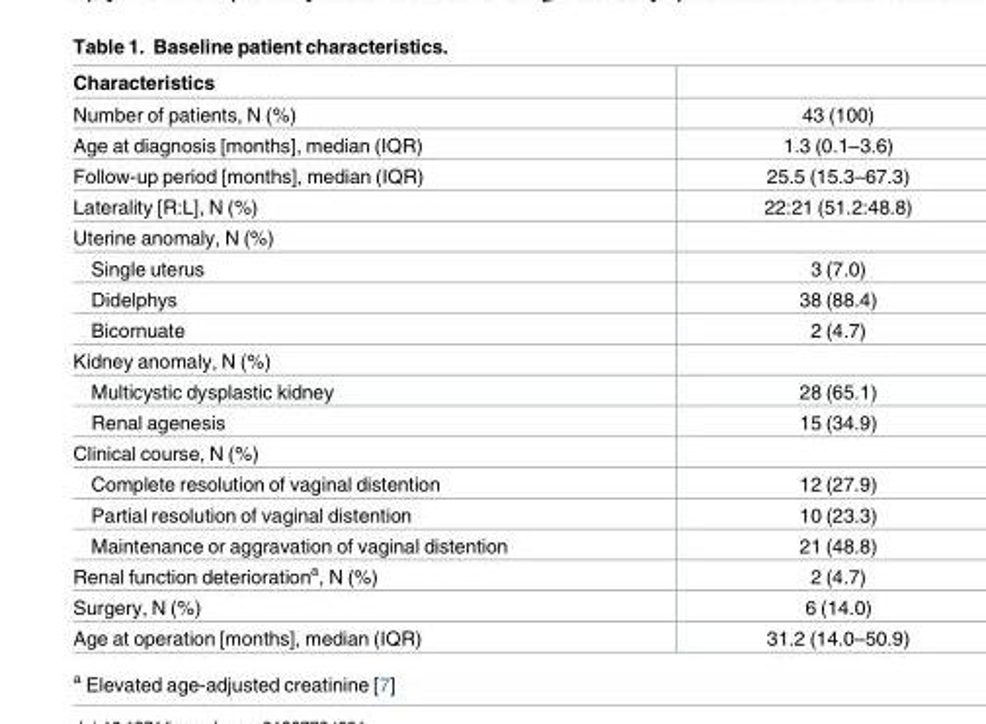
<table><thead><tr><td>Characteristics</td><td></td></tr></thead><tbody><tr><td>Number of patients, N (%)</td><td>43 (100)</td></tr><tr><td>Age at diagnosis [months], median (IQR)</td><td>1.3 (0.1–3.6)</td></tr><tr><td>Follow-up period [months], median (IQR)</td><td>25.5 (15.3–67.3)</td></tr><tr><td>Laterality [R:L], N (%)</td><td>22:21 (51.2:48.8)</td></tr><tr><td colspan="2">Uterine anomaly, N (%)</td></tr><tr><td>Single uterus</td><td>3 (7.0)</td></tr><tr><td>Didelphys</td><td>38 (88.4)</td></tr><tr><td>Bicornuate</td><td>2 (4.7)</td></tr><tr><td colspan="2">Kidney anomaly, N (%)</td></tr><tr><td>Multicystic dysplastic kidney</td><td>28 (65.1)</td></tr><tr><td>Renal agenesis</td><td>15 (34.9)</td></tr><tr><td colspan="2">Clinical course, N (%)</td></tr><tr><td>Complete resolution of vaginal distention</td><td>12 (27.9)</td></tr><tr><td>Partial resolution of vaginal distention</td><td>10 (23.3)</td></tr><tr><td>Maintenance or aggravation of vaginal distention</td><td>21 (48.8)</td></tr><tr><td>Renal function deterioration<sup>a</sup>, N (%)</td><td>2 (4.7)</td></tr><tr><td>Surgery, N (%)</td><td>6 (14.0)</td></tr><tr><td>Age at operation [months], median (IQR)</td><td>31.2 (14.0–50.9)</td></tr></tbody></table>